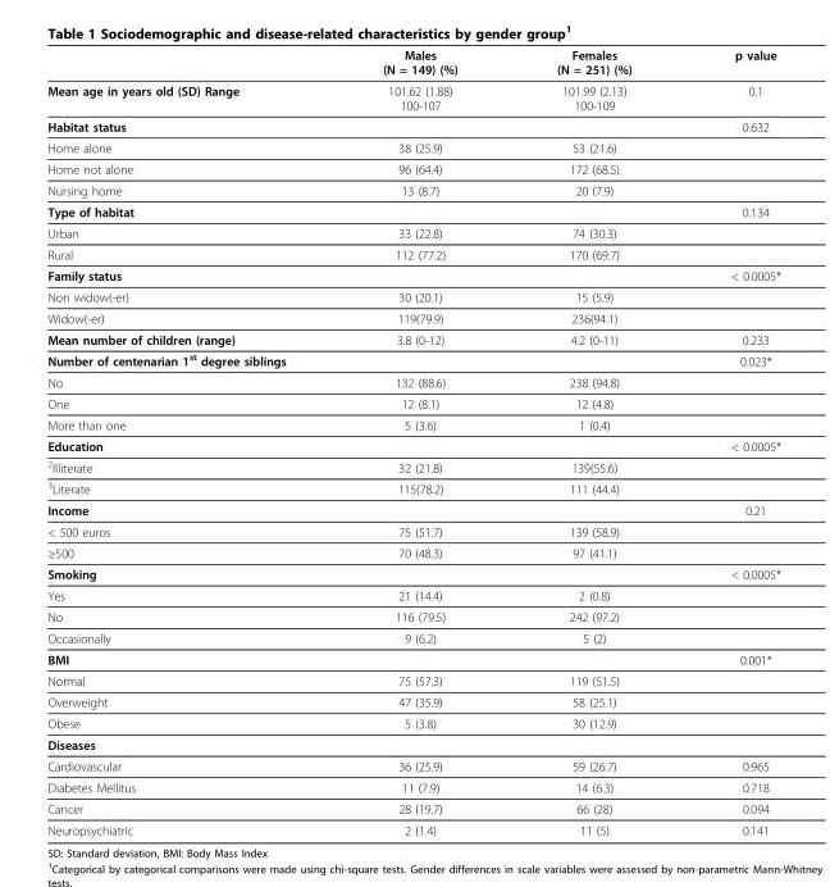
<table><thead><tr><td></td><td>Males (N = 149) (%)</td><td>Females (N = 251) (%)</td><td>p value</td></tr></thead><tbody><tr><td>Mean age in years old (SD) Range</td><td>101.62 (1.88) 100-107</td><td>101.99 (2.13) 100-109</td><td>0.1</td></tr><tr><td colspan="3">Habitat status</td><td>0.632</td></tr><tr><td>Home alone</td><td>38 (25.9)</td><td>53 (21.6)</td><td></td></tr><tr><td>Home not alone</td><td>96 (64.4)</td><td>172 (68.5)</td><td></td></tr><tr><td>Nursing home</td><td>13 (8.7)</td><td>20 (7.9)</td><td></td></tr><tr><td colspan="3">Type of habitat</td><td>0.134</td></tr><tr><td>Urban</td><td>33 (22.8)</td><td>74 (30.3)</td><td></td></tr><tr><td>Rural</td><td>112 (77.2)</td><td>170 (69.7)</td><td></td></tr><tr><td colspan="3">Family status</td><td>&lt; 0.0005*</td></tr><tr><td>Non widow(-er)</td><td>30 (20.1)</td><td>15 (5.9)</td><td></td></tr><tr><td>Widow(-er)</td><td>119(79.9)</td><td>236(94.1)</td><td></td></tr><tr><td>Mean number of children (range)</td><td>3.8 (0-12)</td><td>4.2 (0-11)</td><td>0.233</td></tr><tr><td colspan="3">Number of centenarian 1<sup>st</sup> degree siblings</td><td>0.023*</td></tr><tr><td>No</td><td>132 (88.6)</td><td>238 (94.8)</td><td></td></tr><tr><td>One</td><td>12 (8.1)</td><td>12 (4.8)</td><td></td></tr><tr><td>More than one</td><td>5 (3.6)</td><td>1 (0.4)</td><td></td></tr><tr><td colspan="3">Education</td><td>&lt; 0.0005*</td></tr><tr><td><sup>2</sup>Illiterate</td><td>32 (21.8)</td><td>139(55.6)</td><td></td></tr><tr><td><sup>3</sup>Literate</td><td>115(78.2)</td><td>111 (44.4)</td><td></td></tr><tr><td colspan="3">Income</td><td>0.21</td></tr><tr><td>&lt; 500 euros</td><td>75 (51.7)</td><td>139 (58.9)</td><td></td></tr><tr><td>≥500</td><td>70 (48.3)</td><td>97 (41.1)</td><td></td></tr><tr><td colspan="3">Smoking</td><td>&lt; 0.0005*</td></tr><tr><td>Yes</td><td>21 (14.4)</td><td>2 (0.8)</td><td></td></tr><tr><td>No</td><td>116 (79.5)</td><td>242 (97.2)</td><td></td></tr><tr><td>Occasionally</td><td>9 (6.2)</td><td>5 (2)</td><td></td></tr><tr><td colspan="3">BMI</td><td>0.001*</td></tr><tr><td>Normal</td><td>75 (57.3)</td><td>119 (51.5)</td><td></td></tr><tr><td>Overweight</td><td>47 (35.9)</td><td>58 (25.1)</td><td></td></tr><tr><td>Obese</td><td>5 (3.8)</td><td>30 (12.9)</td><td></td></tr><tr><td colspan="4">Diseases</td></tr><tr><td>Cardiovascular</td><td>36 (25.9)</td><td>59 (26.7)</td><td>0.965</td></tr><tr><td>Diabetes Mellitus</td><td>11 (7.9)</td><td>14 (6.3)</td><td>0.718</td></tr><tr><td>Cancer</td><td>28 (19.7)</td><td>66 (28)</td><td>0.094</td></tr><tr><td>Neuropsychiatric</td><td>2 (1.4)</td><td>11 (5)</td><td>0.141</td></tr></tbody></table>